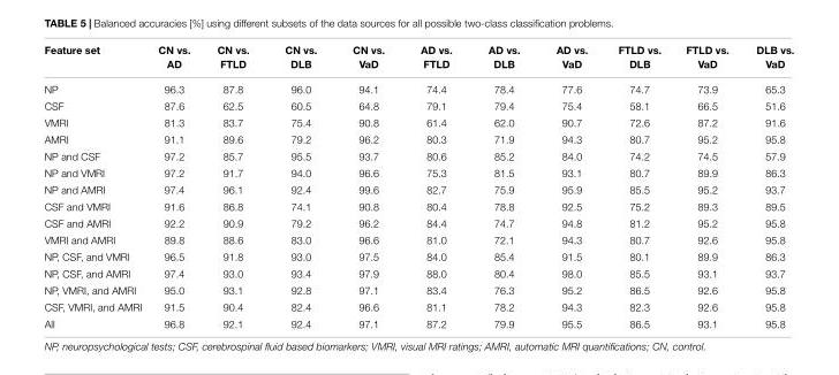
<table><thead><tr><td>Feature set</td><td>CN vs. AD</td><td>CN vs. FTLD</td><td>CN vs. DLB</td><td>CN vs. VaD</td><td>AD vs. FTLD</td><td>AD vs. DLB</td><td>AD vs. VaD</td><td>FTLD vs. DLB</td><td>FTLD vs. VaD</td><td>DLB vs. VaD</td></tr></thead><tbody><tr><td>NP</td><td>96.3</td><td>87.8</td><td>96.0</td><td>94.1</td><td>74.4</td><td>78.4</td><td>77.6</td><td>74.7</td><td>73.9</td><td>65.3</td></tr><tr><td>CSF</td><td>87.6</td><td>62.5</td><td>60.5</td><td>64.8</td><td>79.1</td><td>79.4</td><td>75.4</td><td>58.1</td><td>66.5</td><td>51.6</td></tr><tr><td>VMRI</td><td>81.3</td><td>83.7</td><td>75.4</td><td>90.8</td><td>61.4</td><td>62.0</td><td>90.7</td><td>72.6</td><td>87.2</td><td>91.6</td></tr><tr><td>AMRI</td><td>91.1</td><td>89.6</td><td>79.2</td><td>96.2</td><td>80.3</td><td>71.9</td><td>94.3</td><td>80.7</td><td>95.2</td><td>95.8</td></tr><tr><td>NP and CSF</td><td>97.2</td><td>85.7</td><td>95.5</td><td>93.7</td><td>80.6</td><td>85.2</td><td>84.0</td><td>74.2</td><td>74.5</td><td>57.9</td></tr><tr><td>NP and VMRI</td><td>97.2</td><td>91.7</td><td>94.0</td><td>96.6</td><td>75.3</td><td>81.5</td><td>93.1</td><td>80.7</td><td>89.9</td><td>86.3</td></tr><tr><td>NP and AMRI</td><td>97.4</td><td>96.1</td><td>92.4</td><td>99.6</td><td>82.7</td><td>75.9</td><td>95.9</td><td>85.5</td><td>95.2</td><td>93.7</td></tr><tr><td>CSF and VMRI</td><td>91.6</td><td>86.8</td><td>74.1</td><td>90.8</td><td>80.4</td><td>78.8</td><td>92.5</td><td>75.2</td><td>89.3</td><td>89.5</td></tr><tr><td>CSF and AMRI</td><td>92.2</td><td>90.9</td><td>79.2</td><td>96.2</td><td>84.4</td><td>74.7</td><td>94.8</td><td>81.2</td><td>95.2</td><td>95.8</td></tr><tr><td>VMRI and AMRI</td><td>89.8</td><td>88.6</td><td>83.0</td><td>96.6</td><td>81.0</td><td>72.1</td><td>94.3</td><td>80.7</td><td>92.6</td><td>95.8</td></tr><tr><td>NP, CSF, and VMRI</td><td>96.5</td><td>91.8</td><td>93.0</td><td>97.5</td><td>84.0</td><td>85.4</td><td>91.5</td><td>80.1</td><td>89.9</td><td>86.3</td></tr><tr><td>NP, CSF, and AMRI</td><td>97.4</td><td>93.0</td><td>93.4</td><td>97.9</td><td>88.0</td><td>80.4</td><td>98.0</td><td>85.5</td><td>93.1</td><td>93.7</td></tr><tr><td>NP, VMRI, and AMRI</td><td>95.0</td><td>93.1</td><td>92.8</td><td>97.1</td><td>83.4</td><td>76.3</td><td>95.2</td><td>86.5</td><td>92.6</td><td>95.8</td></tr><tr><td>CSF, VMRI, and AMRI</td><td>91.5</td><td>90.4</td><td>82.4</td><td>96.6</td><td>81.1</td><td>78.2</td><td>94.3</td><td>82.3</td><td>92.6</td><td>95.8</td></tr><tr><td>All</td><td>96.8</td><td>92.1</td><td>92.4</td><td>97.1</td><td>87.2</td><td>79.9</td><td>95.5</td><td>86.5</td><td>93.1</td><td>95.8</td></tr></tbody></table>